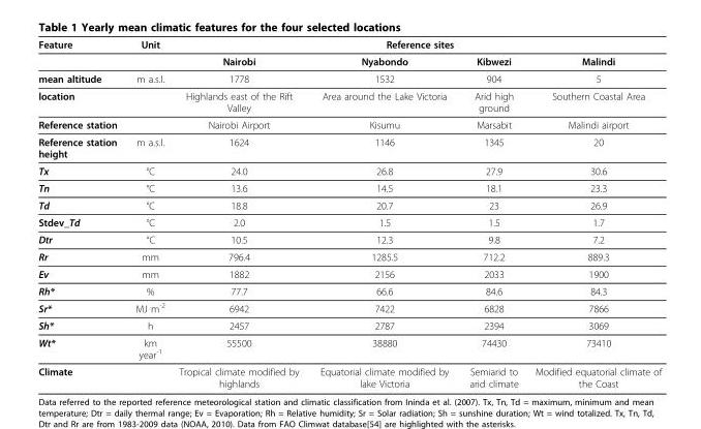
<table><thead><tr><td rowspan="2">Feature</td><td rowspan="2">Unit</td><td colspan="4">Reference sites</td></tr><tr><td>Nairobi</td><td>Nyabondo</td><td>Kibwezi</td><td>Malindi</td></tr></thead><tbody><tr><td>mean altitude</td><td>m a.s.l.</td><td>1778</td><td>1532</td><td>904</td><td>5</td></tr><tr><td>location</td><td></td><td>Highlands east of the Rift Valley</td><td>Area around the Lake Victoria</td><td>Arid high ground</td><td>Southern Coastal Area</td></tr><tr><td>Reference station</td><td></td><td>Nairobi Airport</td><td>Kisumu</td><td>Marsabit</td><td>Malindi airport</td></tr><tr><td>Reference station height</td><td>m a.s.l.</td><td>1624</td><td>1146</td><td>1345</td><td>20</td></tr><tr><td>Tx</td><td>°C</td><td>24.0</td><td>26.8</td><td>27.9</td><td>30.6</td></tr><tr><td>Tn</td><td>°C</td><td>13.6</td><td>14.5</td><td>18.1</td><td>23.3</td></tr><tr><td>Td</td><td>°C</td><td>18.8</td><td>20.7</td><td>23</td><td>26.9</td></tr><tr><td>Stdev_Td</td><td>°C</td><td>2.0</td><td>1.5</td><td>1.5</td><td>1.7</td></tr><tr><td>Dtr</td><td>°C</td><td>10.5</td><td>12.3</td><td>9.8</td><td>7.2</td></tr><tr><td>Rr</td><td>mm</td><td>796.4</td><td>1285.5</td><td>712.2</td><td>889.3</td></tr><tr><td>Ev</td><td>mm</td><td>1882</td><td>2156</td><td>2033</td><td>1900</td></tr><tr><td>Rh*</td><td>%</td><td>77.7</td><td>66.6</td><td>84.6</td><td>84.3</td></tr><tr><td>Sr*</td><td>MJ m<sup>-2</sup></td><td>6942</td><td>7422</td><td>6828</td><td>7866</td></tr><tr><td>Sh*</td><td>h</td><td>2457</td><td>2787</td><td>2394</td><td>3069</td></tr><tr><td>Wt*</td><td>km year<sup>-1</sup></td><td>55500</td><td>38880</td><td>74430</td><td>73410</td></tr><tr><td>Climate</td><td></td><td>Tropical climate modified by highlands</td><td>Equatorial climate modified by lake Victoria</td><td>Semiarid to arid climate</td><td>Modified equatorial climate of the Coast</td></tr></tbody></table>